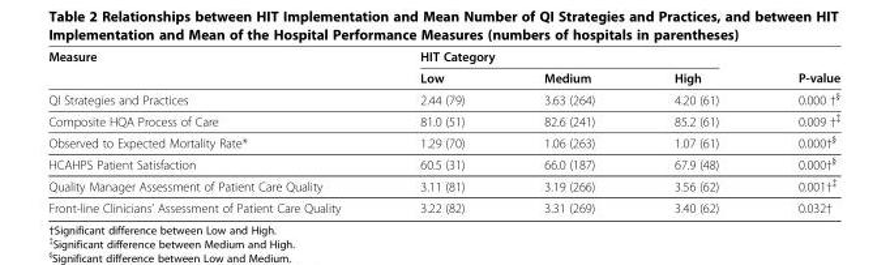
<table><thead><tr><td rowspan="2">Measure</td><td colspan="3">HIT Category</td><td rowspan="2">P-value</td></tr><tr><td>Low</td><td>Medium</td><td>High</td></tr></thead><tbody><tr><td>QI Strategies and Practices</td><td>2.44 (79)</td><td>3.63 (264)</td><td>4.20 (61)</td><td>0.000 †<sup>§</sup></td></tr><tr><td>Composite HQA Process of Care</td><td>81.0 (51)</td><td>82.6 (241)</td><td>85.2 (61)</td><td>0.009 †<sup>‡</sup></td></tr><tr><td>Observed to Expected Mortality Rate*</td><td>1.29 (70)</td><td>1.06 (263)</td><td>1.07 (61)</td><td>0.000†<sup>§</sup></td></tr><tr><td>HCAHPS Patient Satisfaction</td><td>60.5 (31)</td><td>66.0 (187)</td><td>67.9 (48)</td><td>0.000†<sup>§</sup></td></tr><tr><td>Quality Manager Assessment of Patient Care Quality</td><td>3.11 (81)</td><td>3.19 (266)</td><td>3.56 (62)</td><td>0.001†<sup>‡</sup></td></tr><tr><td>Front-line Clinicians’ Assessment of Patient Care Quality</td><td>3.22 (82)</td><td>3.31 (269)</td><td>3.40 (62)</td><td>0.032†</td></tr></tbody></table>